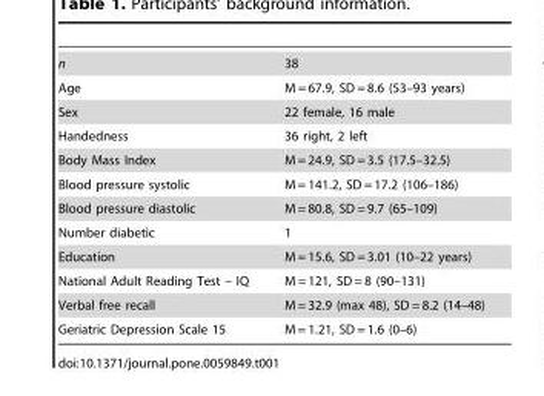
<table><tbody><tr><td>n</td><td>38</td></tr><tr><td>Age</td><td>M = 67.9, SD = 8.6 (53–93 years)</td></tr><tr><td>Sex</td><td>22 female, 16 male</td></tr><tr><td>Handedness</td><td>36 right, 2 left</td></tr><tr><td>Body Mass Index</td><td>M = 24.9, SD = 3.5 (17.5–32.5)</td></tr><tr><td>Blood pressure systolic</td><td>M = 141.2, SD = 17.2 (106–186)</td></tr><tr><td>Blood pressure diastolic</td><td>M = 80.8, SD = 9.7 (65–109)</td></tr><tr><td>Number diabetic</td><td>1</td></tr><tr><td>Education</td><td>M = 15.6, SD = 3.01 (10–22 years)</td></tr><tr><td>National Adult Reading Test – IQ</td><td>M = 121, SD = 8 (90–131)</td></tr><tr><td>Verbal free recall</td><td>M = 32.9 (max 48), SD = 8.2 (14–48)</td></tr><tr><td>Geriatric Depression Scale 15</td><td>M = 1.21, SD = 1.6 (0–6)</td></tr></tbody></table>